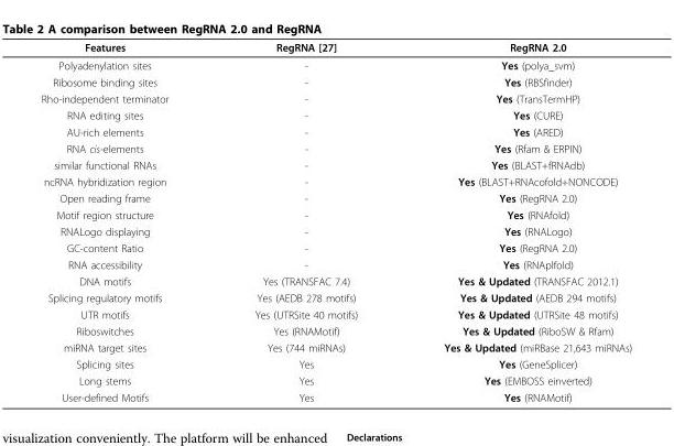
<table><thead><tr><td>Features</td><td>RegRNA [27]</td><td>RegRNA 2.0</td></tr></thead><tbody><tr><td>Polyadenylation sites</td><td>-</td><td>Yes (polya_svm)</td></tr><tr><td>Ribosome binding sites</td><td>-</td><td>Yes (RBSfinder)</td></tr><tr><td>Rho-independent terminator</td><td>-</td><td>Yes (TransTermHP)</td></tr><tr><td>RNA editing sites</td><td>-</td><td>Yes (CURE)</td></tr><tr><td>AU-rich elements</td><td>-</td><td>Yes (ARED)</td></tr><tr><td>RNA cis-elements</td><td>-</td><td>Yes (Rfam &amp; ERPIN)</td></tr><tr><td>similar functional RNAs</td><td>-</td><td>Yes (BLAST+fRNAdb)</td></tr><tr><td>ncRNA hybridization region</td><td>-</td><td>Yes (BLAST+RNAcofold+NONCODE)</td></tr><tr><td>Open reading frame</td><td>-</td><td>Yes (RegRNA 2.0)</td></tr><tr><td>Motif region structure</td><td>-</td><td>Yes (RNAfold)</td></tr><tr><td>RNALogo displaying</td><td>-</td><td>Yes (RNALogo)</td></tr><tr><td>GC-content Ratio</td><td>-</td><td>Yes (RegRNA 2.0)</td></tr><tr><td>RNA accessibility</td><td>-</td><td>Yes (RNAplfold)</td></tr><tr><td>DNA motifs</td><td>Yes (TRANSFAC 7.4)</td><td>Yes &amp; Updated (TRANSFAC 2012.1)</td></tr><tr><td>Splicing regulatory motifs</td><td>Yes (AEDB 278 motifs)</td><td>Yes &amp; Updated (AEDB 294 motifs)</td></tr><tr><td>UTR motifs</td><td>Yes (UTRSite 40 motifs)</td><td>Yes &amp; Updated (UTRSite 48 motifs)</td></tr><tr><td>Riboswitches</td><td>Yes (RNAMotif)</td><td>Yes &amp; Updated (RiboSW &amp; Rfam)</td></tr><tr><td>miRNA target sites</td><td>Yes (744 miRNAs)</td><td>Yes &amp; Updated (miRBase 21,643 miRNAs)</td></tr><tr><td>Splicing sites</td><td>Yes</td><td>Yes (GeneSplicer)</td></tr><tr><td>Long stems</td><td>Yes</td><td>Yes (EMBOSS einverted)</td></tr><tr><td>User-defined Motifs</td><td>Yes</td><td>Yes (RNAMotif)</td></tr></tbody></table>